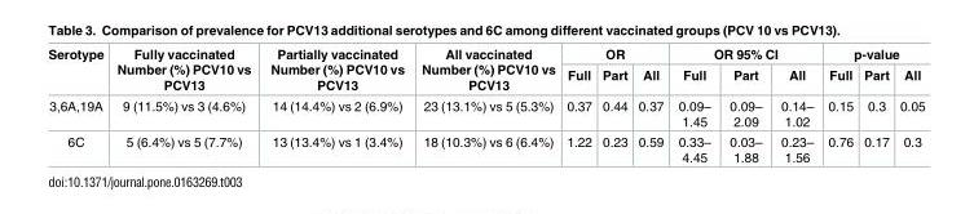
<table><thead><tr><td rowspan="2">Serotype</td><td rowspan="2">Fully vaccinated Number (%) PCV10 vs PCV13</td><td rowspan="2">Partially vaccinated Number (%) PCV10 vs PCV13</td><td rowspan="2">All vaccinated Number (%) PCV10 vs PCV13</td><td colspan="3">OR</td><td colspan="3">OR 95% CI</td><td colspan="3">p-value</td></tr><tr><td>Full</td><td>Part</td><td>All</td><td>Full</td><td>Part</td><td>All</td><td>Full</td><td>Part</td><td>All</td></tr></thead><tbody><tr><td>3,6A,19A</td><td>9 (11.5%) vs 3 (4.6%)</td><td>14 (14.4%) vs 2 (6.9%)</td><td>23 (13.1%) vs 5 (5.3%)</td><td>0.37</td><td>0.44</td><td>0.37</td><td>0.09– 1.45</td><td>0.09– 2.09</td><td>0.14– 1.02</td><td>0.15</td><td>0.3</td><td>0.05</td></tr><tr><td>6C</td><td>5 (6.4%) vs 5 (7.7%)</td><td>13 (13.4%) vs 1 (3.4%)</td><td>18 (10.3%) vs 6 (6.4%)</td><td>1.22</td><td>0.23</td><td>0.59</td><td>0.33– 4.45</td><td>0.03– 1.88</td><td>0.23– 1.56</td><td>0.76</td><td>0.17</td><td>0.3</td></tr></tbody></table>